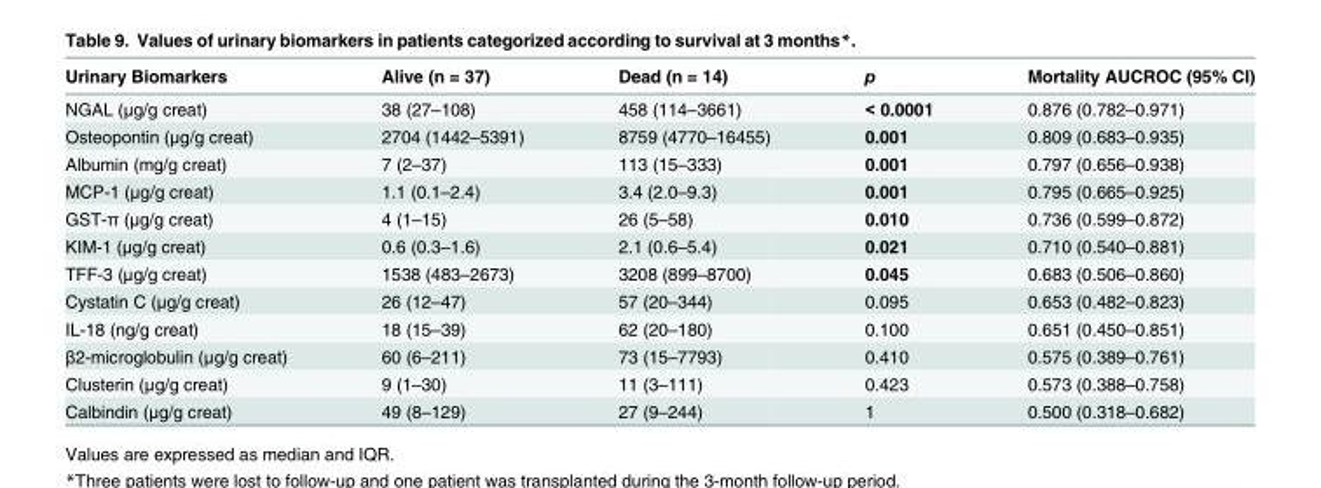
<table><thead><tr><td>Urinary Biomarkers</td><td>Alive (n = 37)</td><td>Dead (n = 14)</td><td>p</td><td>Mortality AUCROC (95% CI)</td></tr></thead><tbody><tr><td>NGAL (μg/g creat)</td><td>38 (27–108)</td><td>458 (114–3661)</td><td>&lt; 0.0001</td><td>0.876 (0.782–0.971)</td></tr><tr><td>Osteopontin (μg/g creat)</td><td>2704 (1442–5391)</td><td>8759 (4770–16455)</td><td>0.001</td><td>0.809 (0.683–0.935)</td></tr><tr><td>Albumin (mg/g creat)</td><td>7 (2–37)</td><td>113 (15–333)</td><td>0.001</td><td>0.797 (0.656–0.938)</td></tr><tr><td>MCP-1 (μg/g creat)</td><td>1.1 (0.1–2.4)</td><td>3.4 (2.0–9.3)</td><td>0.001</td><td>0.795 (0.665–0.925)</td></tr><tr><td>GST-π (μg/g creat)</td><td>4 (1–15)</td><td>26 (5–58)</td><td>0.010</td><td>0.736 (0.599–0.872)</td></tr><tr><td>KIM-1 (μg/g creat)</td><td>0.6 (0.3–1.6)</td><td>2.1 (0.6–5.4)</td><td>0.021</td><td>0.710 (0.540–0.881)</td></tr><tr><td>TFF-3 (μg/g creat)</td><td>1538 (483–2673)</td><td>3208 (899–8700)</td><td>0.045</td><td>0.683 (0.506–0.860)</td></tr><tr><td>Cystatin C (μg/g creat)</td><td>26 (12–47)</td><td>57 (20–344)</td><td>0.095</td><td>0.653 (0.482–0.823)</td></tr><tr><td>IL-18 (ng/g creat)</td><td>18 (15–39)</td><td>62 (20–180)</td><td>0.100</td><td>0.651 (0.450–0.851)</td></tr><tr><td>β2-microglobulin (μg/g creat)</td><td>60 (6–211)</td><td>73 (15–7793)</td><td>0.410</td><td>0.575 (0.389–0.761)</td></tr><tr><td>Clusterin (μg/g creat)</td><td>9 (1–30)</td><td>11 (3–111)</td><td>0.423</td><td>0.573 (0.388–0.758)</td></tr><tr><td>Calbindin (μg/g creat)</td><td>49 (8–129)</td><td>27 (9–244)</td><td>1</td><td>0.500 (0.318–0.682)</td></tr></tbody></table>